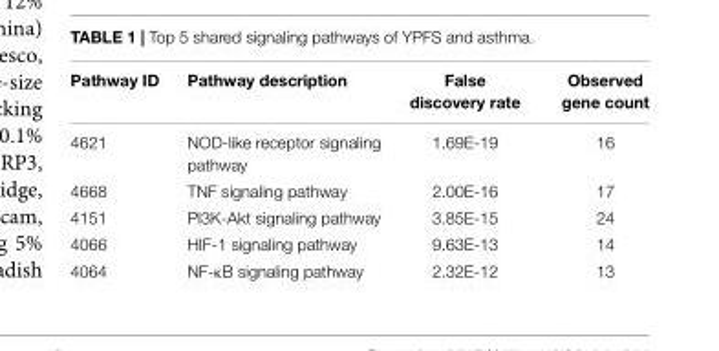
<table><thead><tr><td>Pathway ID</td><td>Pathway description</td><td>False discovery rate</td><td>Observed gene count</td></tr></thead><tbody><tr><td>4621</td><td>NOD-like receptor signaling pathway</td><td>1.69E-19</td><td>16</td></tr><tr><td>4668</td><td>TNF signaling pathway</td><td>2.00E-16</td><td>17</td></tr><tr><td>4151</td><td>PI3K-Akt signaling pathway</td><td>3.85E-15</td><td>24</td></tr><tr><td>4066</td><td>HIF-1 signaling pathway</td><td>9.63E-13</td><td>14</td></tr><tr><td>4064</td><td>NF-κB signaling pathway</td><td>2.32E-12</td><td>13</td></tr></tbody></table>